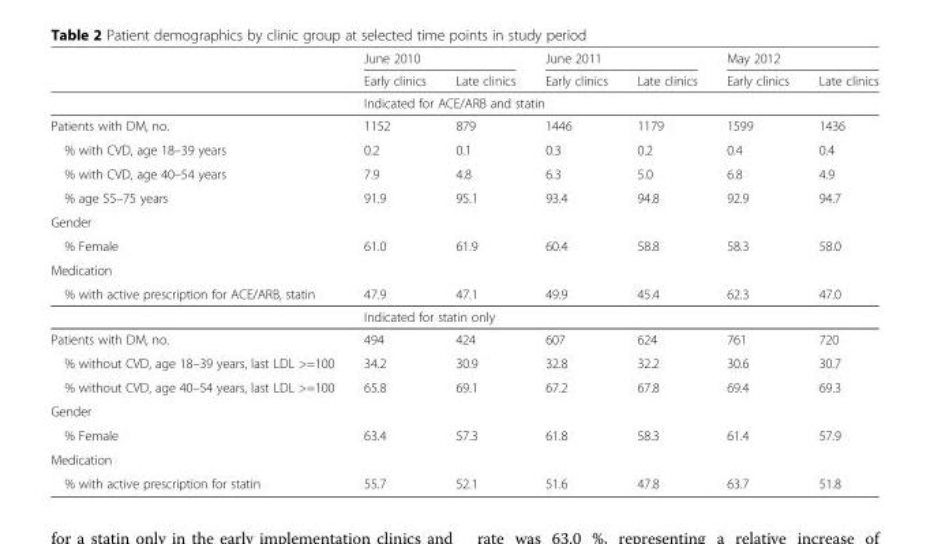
<table><thead><tr><td rowspan="2"></td><td colspan="2">June 2010</td><td colspan="2">June 2011</td><td colspan="2">May 2012</td></tr><tr><td>Early clinics</td><td>Late clinics</td><td>Early clinics</td><td>Late clinics</td><td>Early clinics</td><td>Late clinics</td></tr></thead><tbody><tr><td></td><td colspan="6">Indicated for ACE/ARB and statin</td></tr><tr><td>Patients with DM, no.</td><td>1152</td><td>879</td><td>1446</td><td>1179</td><td>1599</td><td>1436</td></tr><tr><td>% with CVD, age 18–39 years</td><td>0.2</td><td>0.1</td><td>0.3</td><td>0.2</td><td>0.4</td><td>0.4</td></tr><tr><td>% with CVD, age 40–54 years</td><td>7.9</td><td>4.8</td><td>6.3</td><td>5.0</td><td>6.8</td><td>4.9</td></tr><tr><td>% age 55–75 years</td><td>91.9</td><td>95.1</td><td>93.4</td><td>94.8</td><td>92.9</td><td>94.7</td></tr><tr><td colspan="7">Gender</td></tr><tr><td>% Female</td><td>61.0</td><td>61.9</td><td>60.4</td><td>58.8</td><td>58.3</td><td>58.0</td></tr><tr><td colspan="7">Medication</td></tr><tr><td rowspan="2">% with active prescription for ACE/ARB, statin</td><td>47.9</td><td>47.1</td><td>49.9</td><td>45.4</td><td>62.3</td><td>47.0</td></tr><tr><td colspan="6">Indicated for statin only</td></tr><tr><td>Patients with DM, no.</td><td>494</td><td>424</td><td>607</td><td>624</td><td>761</td><td>720</td></tr><tr><td>% without CVD, age 18–39 years, last LDL &gt;=100</td><td>34.2</td><td>30.9</td><td>32.8</td><td>32.2</td><td>30.6</td><td>30.7</td></tr><tr><td>% without CVD, age 40–54 years, last LDL &gt;=100</td><td>65.8</td><td>69.1</td><td>67.2</td><td>67.8</td><td>69.4</td><td>69.3</td></tr><tr><td colspan="7">Gender</td></tr><tr><td>% Female</td><td>63.4</td><td>57.3</td><td>61.8</td><td>58.3</td><td>61.4</td><td>57.9</td></tr><tr><td colspan="7">Medication</td></tr><tr><td>% with active prescription for statin</td><td>55.7</td><td>52.1</td><td>51.6</td><td>47.8</td><td>63.7</td><td>51.8</td></tr></tbody></table>